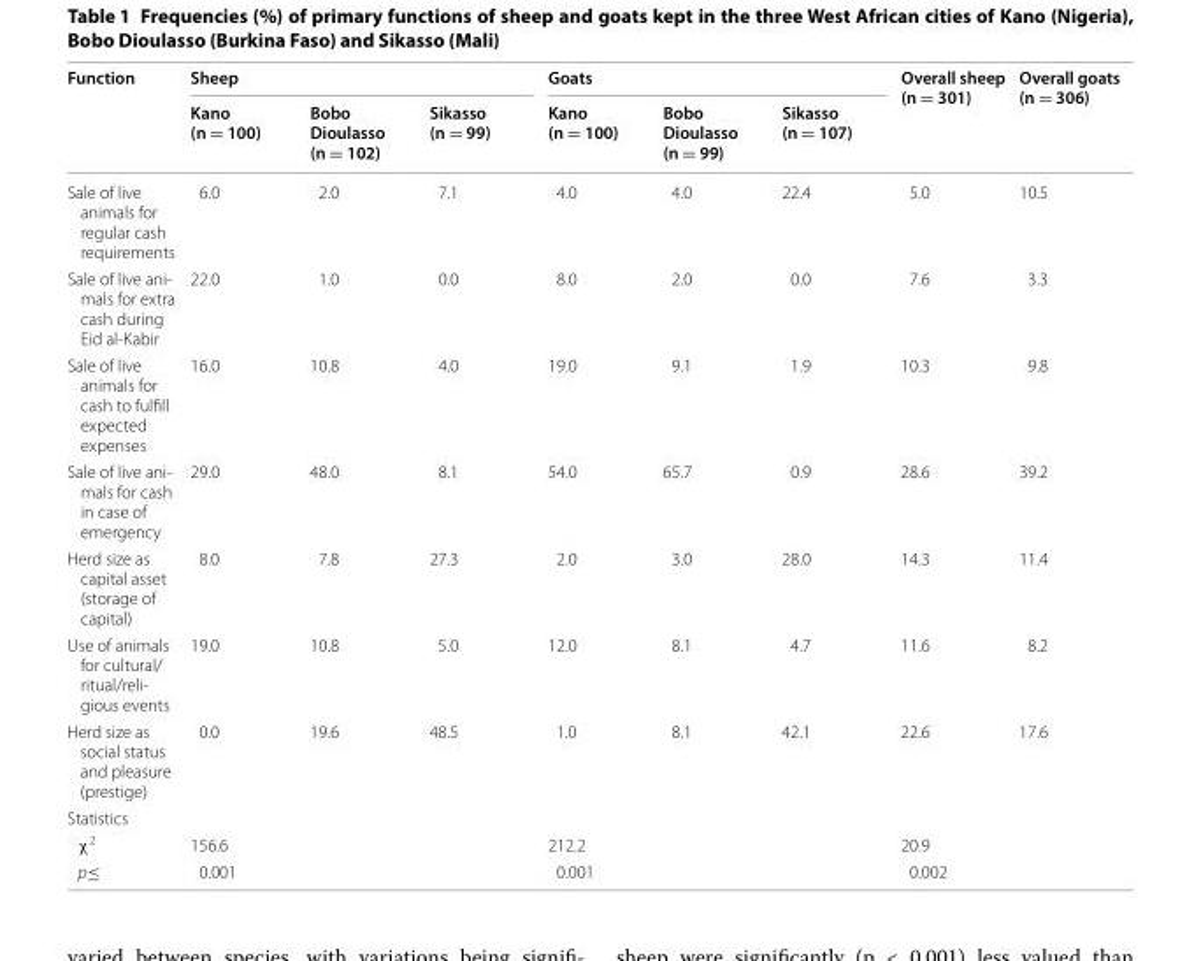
<table><thead><tr><td rowspan="2">Function</td><td colspan="3">Sheep</td><td colspan="3">Goats</td><td rowspan="2">Overall sheep (n = 301)</td><td rowspan="2">Overall goats (n = 306)</td></tr><tr><td>Kano (n = 100)</td><td>Bobo Dioulasso (n = 102)</td><td>Sikasso (n = 99)</td><td>Kano (n = 100)</td><td>Bobo Dioulasso (n = 99)</td><td>Sikasso (n = 107)</td></tr></thead><tbody><tr><td>Sale of live animals for regular cash requirements</td><td>6.0</td><td>2.0</td><td>7.1</td><td>4.0</td><td>4.0</td><td>22.4</td><td>5.0</td><td>10.5</td></tr><tr><td>Sale of live ani- mals for extra cash during Eid al-Kabir</td><td>22.0</td><td>1.0</td><td>0.0</td><td>8.0</td><td>2.0</td><td>0.0</td><td>7.6</td><td>3.3</td></tr><tr><td>Sale of live animals for cash to fulfill expected expenses</td><td>16.0</td><td>10.8</td><td>4.0</td><td>19.0</td><td>9.1</td><td>1.9</td><td>10.3</td><td>9.8</td></tr><tr><td>Sale of live ani- mals for cash in case of emergency</td><td>29.0</td><td>48.0</td><td>8.1</td><td>54.0</td><td>65.7</td><td>0.9</td><td>28.6</td><td>39.2</td></tr><tr><td>Herd size as capital asset (storage of capital)</td><td>8.0</td><td>7.8</td><td>27.3</td><td>2.0</td><td>3.0</td><td>28.0</td><td>14.3</td><td>11.4</td></tr><tr><td>Use of animals for cultural/ ritual/reli- gious events</td><td>19.0</td><td>10.8</td><td>5.0</td><td>12.0</td><td>8.1</td><td>4.7</td><td>11.6</td><td>8.2</td></tr><tr><td>Herd size as social status and pleasure (prestige)</td><td>0.0</td><td>19.6</td><td>48.5</td><td>1.0</td><td>8.1</td><td>42.1</td><td>22.6</td><td>17.6</td></tr><tr><td colspan="9">Statistics</td></tr><tr><td>χ<sup>2</sup></td><td colspan="3">156.6</td><td colspan="3">212.2</td><td colspan="2">20.9</td></tr><tr><td>p≤</td><td colspan="3">0.001</td><td colspan="3">0.001</td><td colspan="2">0.002</td></tr></tbody></table>